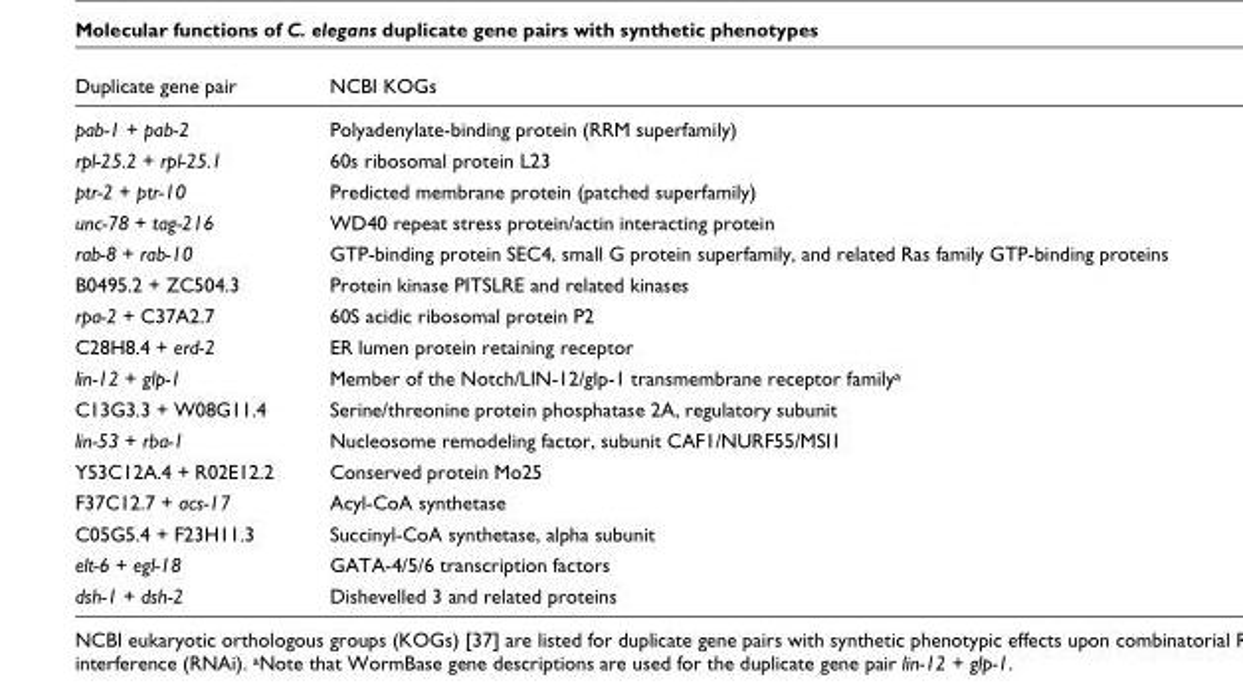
<table><thead><tr><td>Duplicate gene pair</td><td>NCBI KOGs</td></tr></thead><tbody><tr><td>pab-1 + pab-2</td><td>Polyadenylate-binding protein (RRM superfamily)</td></tr><tr><td>rpl-25.2 + rpl-25.1</td><td>60s ribosomal protein L23</td></tr><tr><td>ptr-2 + ptr-10</td><td>Predicted membrane protein (patched superfamily)</td></tr><tr><td>unc-78 + tag-216</td><td>WD40 repeat stress protein/actin interacting protein</td></tr><tr><td>rab-8 + rab-10</td><td>GTP-binding protein SEC4, small G protein superfamily, and related Ras family GTP-binding proteins</td></tr><tr><td>B0495.2 + ZC504.3</td><td>Protein kinase PITSLRE and related kinases</td></tr><tr><td>rpa-2 + C37A2.7</td><td>60S acidic ribosomal protein P2</td></tr><tr><td>C28H8.4 + erd-2</td><td>ER lumen protein retaining receptor</td></tr><tr><td>lin-12 + glp-1</td><td>Member of the Notch/LIN-12/glp-1 transmembrane receptor familya</td></tr><tr><td>C13G3.3 + W08G11.4</td><td>Serine/threonine protein phosphatase 2A, regulatory subunit</td></tr><tr><td>lin-53 + rba-1</td><td>Nucleosome remodeling factor, subunit CAF1/NURF55/MSI1</td></tr><tr><td>Y53C12A.4 + R02E12.2</td><td>Conserved protein Mo25</td></tr><tr><td>F37C12.7 + acs-17</td><td>Acyl-CoA synthetase</td></tr><tr><td>C05G5.4 + F23H11.3</td><td>Succinyl-CoA synthetase, alpha subunit</td></tr><tr><td>elt-6 + egl-18</td><td>GATA-4/5/6 transcription factors</td></tr><tr><td>dsh-1 + dsh-2</td><td>Dishevelled 3 and related proteins</td></tr></tbody></table>